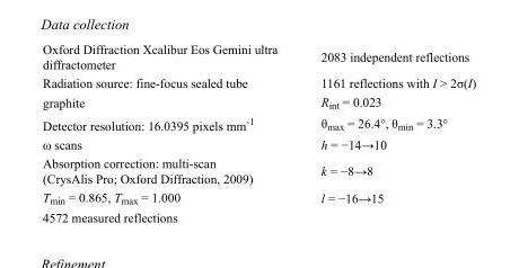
<table><tbody><tr><td>Oxford Diffraction Xcalibur Eos Gemini ultra diffractometer</td><td>2083 independent reflections</td></tr><tr><td>Radiation source: fine-focus sealed tube</td><td>1161 reflections with I &gt; 2σ(I)</td></tr><tr><td>graphite</td><td>R<sub>int</sub> = 0.023</td></tr><tr><td>Detector resolution: 16.0395 pixels mm<sup>-1</sup></td><td>θ<sub>max</sub> = 26.4°, θ<sub>min</sub> = 3.3°</td></tr><tr><td>ω scans</td><td>h = −14→10</td></tr><tr><td>Absorption correction: multi-scan (CrysAlis Pro; Oxford Diffraction, 2009)</td><td>k = −8→8</td></tr><tr><td>T<sub>min</sub> = 0.865, T<sub>max</sub> = 1.000</td><td>l = −16→15</td></tr><tr><td>4572 measured reflections</td><td></td></tr></tbody></table>